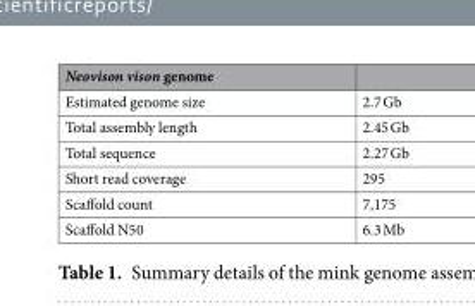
<table><thead><tr><td>Neovison vison genome</td><td></td></tr></thead><tbody><tr><td>Estimated genome size</td><td>2.7 Gb</td></tr><tr><td>Total assembly length</td><td>2.45 Gb</td></tr><tr><td>Total sequence</td><td>2.27 Gb</td></tr><tr><td>Short read coverage</td><td>295</td></tr><tr><td>Scaffold count</td><td>7,175</td></tr><tr><td>Scaffold N50</td><td>6.3 Mb</td></tr></tbody></table>